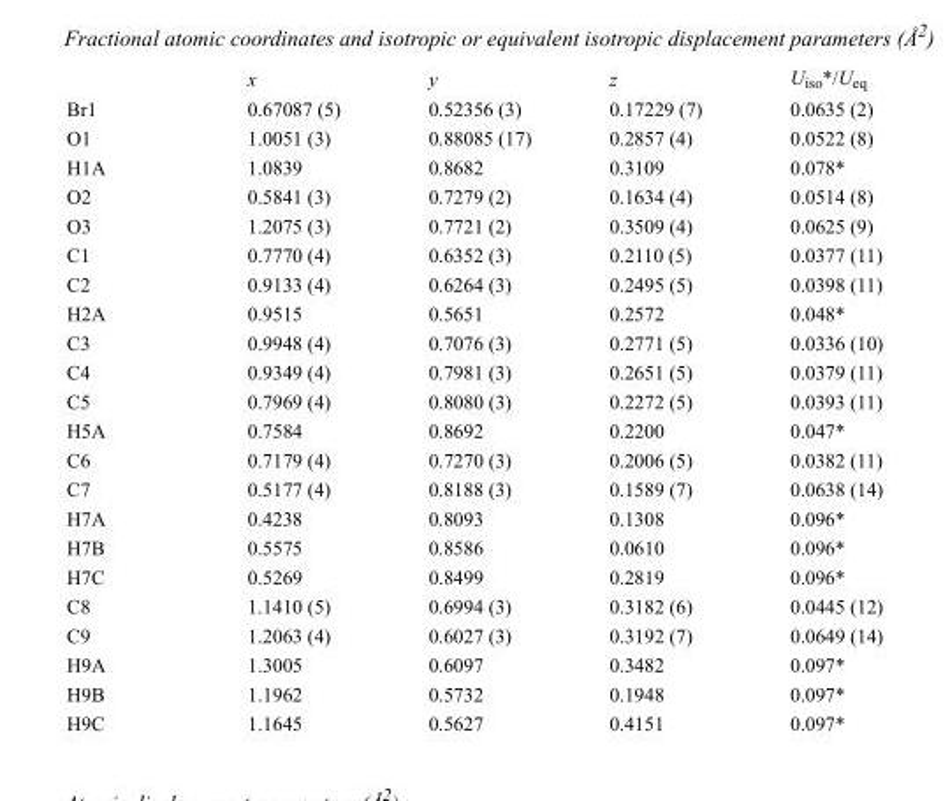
<table><thead><tr><td></td><td>x</td><td>y</td><td>z</td><td>U<sub>iso</sub>*/U<sub>eq</sub></td></tr></thead><tbody><tr><td>Br1</td><td>0.67087 (5)</td><td>0.52356 (3)</td><td>0.17229 (7)</td><td>0.0635 (2)</td></tr><tr><td>O1</td><td>1.0051 (3)</td><td>0.88085 (17)</td><td>0.2857 (4)</td><td>0.0522 (8)</td></tr><tr><td>H1A</td><td>1.0839</td><td>0.8682</td><td>0.3109</td><td>0.078*</td></tr><tr><td>O2</td><td>0.5841 (3)</td><td>0.7279 (2)</td><td>0.1634 (4)</td><td>0.0514 (8)</td></tr><tr><td>O3</td><td>1.2075 (3)</td><td>0.7721 (2)</td><td>0.3509 (4)</td><td>0.0625 (9)</td></tr><tr><td>C1</td><td>0.7770 (4)</td><td>0.6352 (3)</td><td>0.2110 (5)</td><td>0.0377 (11)</td></tr><tr><td>C2</td><td>0.9133 (4)</td><td>0.6264 (3)</td><td>0.2495 (5)</td><td>0.0398 (11)</td></tr><tr><td>H2A</td><td>0.9515</td><td>0.5651</td><td>0.2572</td><td>0.048*</td></tr><tr><td>C3</td><td>0.9948 (4)</td><td>0.7076 (3)</td><td>0.2771 (5)</td><td>0.0336 (10)</td></tr><tr><td>C4</td><td>0.9349 (4)</td><td>0.7981 (3)</td><td>0.2651 (5)</td><td>0.0379 (11)</td></tr><tr><td>C5</td><td>0.7969 (4)</td><td>0.8080 (3)</td><td>0.2272 (5)</td><td>0.0393 (11)</td></tr><tr><td>H5A</td><td>0.7584</td><td>0.8692</td><td>0.2200</td><td>0.047*</td></tr><tr><td>C6</td><td>0.7179 (4)</td><td>0.7270 (3)</td><td>0.2006 (5)</td><td>0.0382 (11)</td></tr><tr><td>C7</td><td>0.5177 (4)</td><td>0.8188 (3)</td><td>0.1589 (7)</td><td>0.0638 (14)</td></tr><tr><td>H7A</td><td>0.4238</td><td>0.8093</td><td>0.1308</td><td>0.096*</td></tr><tr><td>H7B</td><td>0.5575</td><td>0.8586</td><td>0.0610</td><td>0.096*</td></tr><tr><td>H7C</td><td>0.5269</td><td>0.8499</td><td>0.2819</td><td>0.096*</td></tr><tr><td>C8</td><td>1.1410 (5)</td><td>0.6994 (3)</td><td>0.3182 (6)</td><td>0.0445 (12)</td></tr><tr><td>C9</td><td>1.2063 (4)</td><td>0.6027 (3)</td><td>0.3192 (7)</td><td>0.0649 (14)</td></tr><tr><td>H9A</td><td>1.3005</td><td>0.6097</td><td>0.3482</td><td>0.097*</td></tr><tr><td>H9B</td><td>1.1962</td><td>0.5732</td><td>0.1948</td><td>0.097*</td></tr><tr><td>H9C</td><td>1.1645</td><td>0.5627</td><td>0.4151</td><td>0.097*</td></tr></tbody></table>